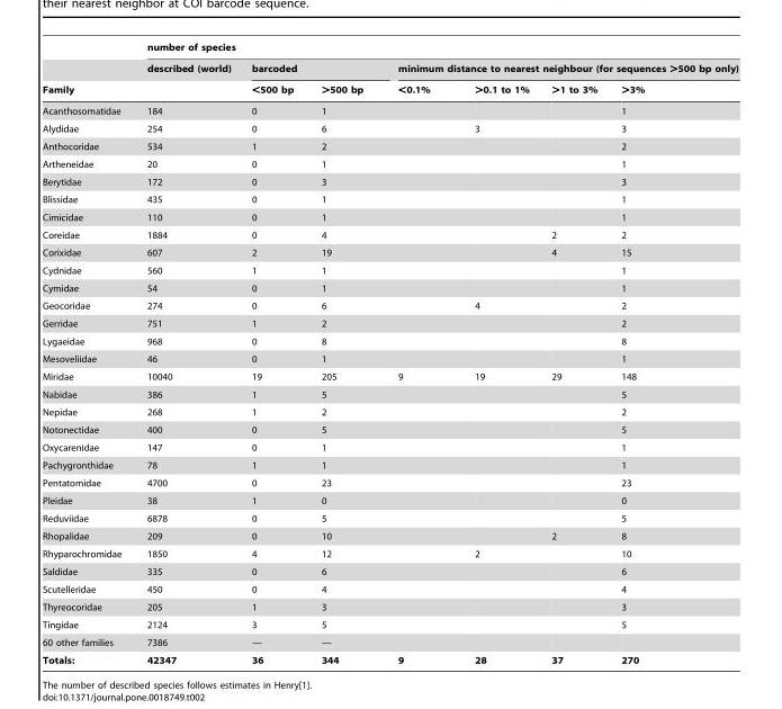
<table><thead><tr><td rowspan="3">Family</td><td colspan="7">number of species</td></tr><tr><td rowspan="2">described (world)</td><td colspan="2">barcoded</td><td colspan="4">minimum distance to nearest neighbour (for sequences &gt;500 bp only)</td></tr><tr><td>&lt;500 bp</td><td>&gt;500 bp</td><td>&lt;0.1%</td><td>&gt;0.1 to 1%</td><td>&gt;1 to 3%</td><td>&gt;3%</td></tr></thead><tbody><tr><td>Acanthosomatidae</td><td>184</td><td>0</td><td>1</td><td></td><td></td><td></td><td>1</td></tr><tr><td>Alydidae</td><td>254</td><td>0</td><td>6</td><td></td><td>3</td><td></td><td>3</td></tr><tr><td>Anthocoridae</td><td>534</td><td>1</td><td>2</td><td></td><td></td><td></td><td>2</td></tr><tr><td>Artheneidae</td><td>20</td><td>0</td><td>1</td><td></td><td></td><td></td><td>1</td></tr><tr><td>Berytidae</td><td>172</td><td>0</td><td>3</td><td></td><td></td><td></td><td>3</td></tr><tr><td>Blissidae</td><td>435</td><td>0</td><td>1</td><td></td><td></td><td></td><td>1</td></tr><tr><td>Cimicidae</td><td>110</td><td>0</td><td>1</td><td></td><td></td><td></td><td>1</td></tr><tr><td>Coreidae</td><td>1884</td><td>0</td><td>4</td><td></td><td></td><td>2</td><td>2</td></tr><tr><td>Corixidae</td><td>607</td><td>2</td><td>19</td><td></td><td></td><td>4</td><td>15</td></tr><tr><td>Cydnidae</td><td>560</td><td>1</td><td>1</td><td></td><td></td><td></td><td>1</td></tr><tr><td>Cymidae</td><td>54</td><td>0</td><td>1</td><td></td><td></td><td></td><td>1</td></tr><tr><td>Geocoridae</td><td>274</td><td>0</td><td>6</td><td></td><td>4</td><td></td><td>2</td></tr><tr><td>Gerridae</td><td>751</td><td>1</td><td>2</td><td></td><td></td><td></td><td>2</td></tr><tr><td>Lygaeidae</td><td>968</td><td>0</td><td>8</td><td></td><td></td><td></td><td>8</td></tr><tr><td>Mesoveliidae</td><td>46</td><td>0</td><td>1</td><td></td><td></td><td></td><td>1</td></tr><tr><td>Miridae</td><td>10040</td><td>19</td><td>205</td><td>9</td><td>19</td><td>29</td><td>148</td></tr><tr><td>Nabidae</td><td>386</td><td>1</td><td>5</td><td></td><td></td><td></td><td>5</td></tr><tr><td>Nepidae</td><td>268</td><td>1</td><td>2</td><td></td><td></td><td></td><td>2</td></tr><tr><td>Notonectidae</td><td>400</td><td>0</td><td>5</td><td></td><td></td><td></td><td>5</td></tr><tr><td>Oxycarenidae</td><td>147</td><td>0</td><td>1</td><td></td><td></td><td></td><td>1</td></tr><tr><td>Pachygronthidae</td><td>78</td><td>1</td><td>1</td><td></td><td></td><td></td><td>1</td></tr><tr><td>Pentatomidae</td><td>4700</td><td>0</td><td>23</td><td></td><td></td><td></td><td>23</td></tr><tr><td>Pleidae</td><td>38</td><td>1</td><td>0</td><td></td><td></td><td></td><td>0</td></tr><tr><td>Reduviidae</td><td>6878</td><td>0</td><td>5</td><td></td><td></td><td></td><td>5</td></tr><tr><td>Rhopalidae</td><td>209</td><td>0</td><td>10</td><td></td><td></td><td>2</td><td>8</td></tr><tr><td>Rhyparochromidae</td><td>1850</td><td>4</td><td>12</td><td></td><td>2</td><td></td><td>10</td></tr><tr><td>Saldidae</td><td>335</td><td>0</td><td>6</td><td></td><td></td><td></td><td>6</td></tr><tr><td>Scutelleridae</td><td>450</td><td>0</td><td>4</td><td></td><td></td><td></td><td>4</td></tr><tr><td>Thyreocoridae</td><td>205</td><td>1</td><td>3</td><td></td><td></td><td></td><td>3</td></tr><tr><td>Tingidae</td><td>2124</td><td>3</td><td>5</td><td></td><td></td><td></td><td>5</td></tr><tr><td>60 other families</td><td>7386</td><td>—</td><td>—</td><td></td><td></td><td></td><td></td></tr><tr><td>Totals:</td><td>42347</td><td>36</td><td>344</td><td>9</td><td>28</td><td>37</td><td>270</td></tr></tbody></table>